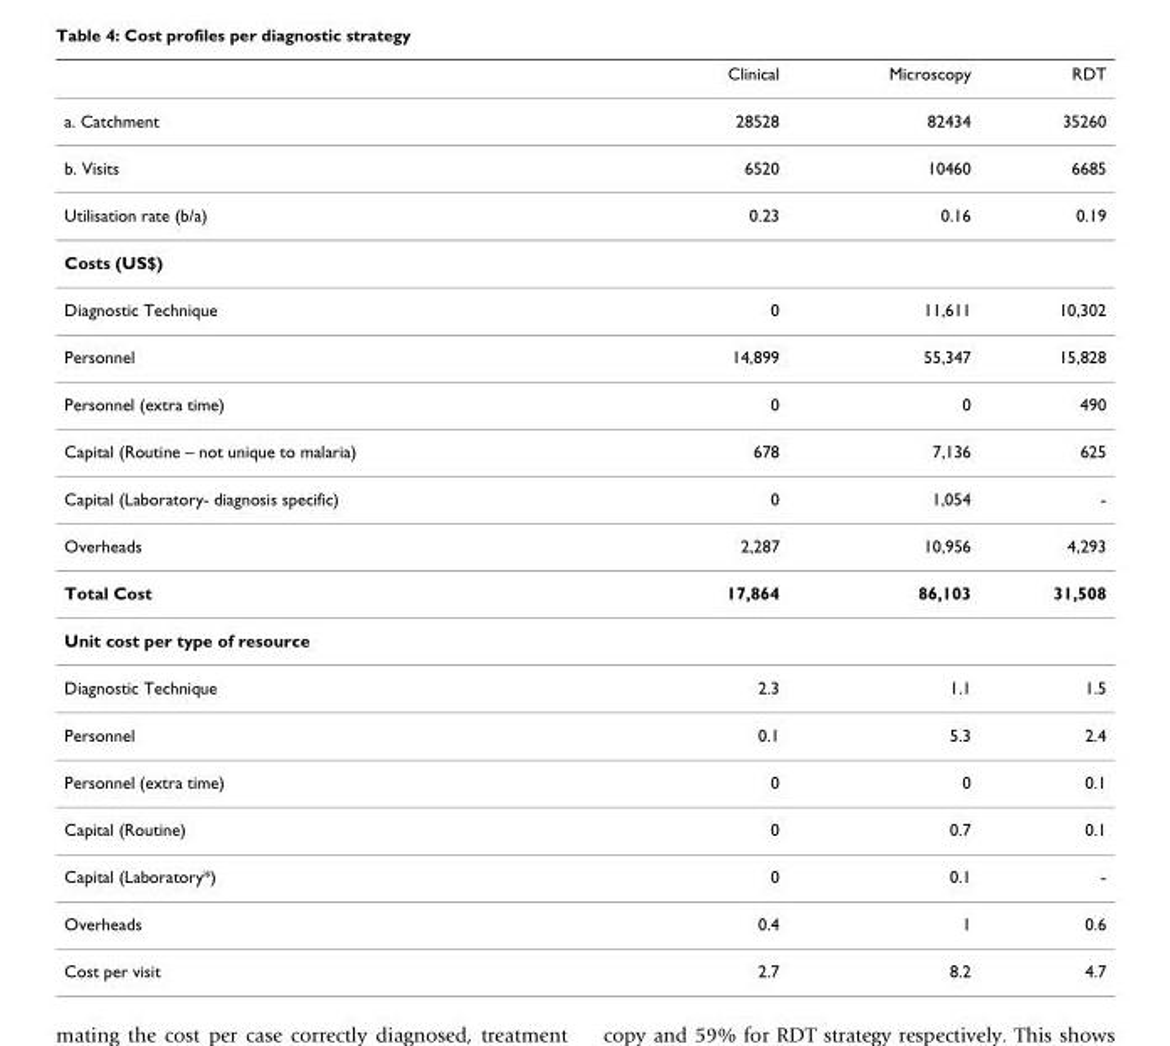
<table><thead><tr><td></td><td>Clinical</td><td>Microscopy</td><td>RDT</td></tr></thead><tbody><tr><td>a. Catchment</td><td>28528</td><td>82434</td><td>35260</td></tr><tr><td>b. Visits</td><td>6520</td><td>10460</td><td>6685</td></tr><tr><td>Utilisation rate (b/a)</td><td>0.23</td><td>0.16</td><td>0.19</td></tr><tr><td colspan="4">Costs (US$)</td></tr><tr><td>Diagnostic Technique</td><td>0</td><td>11,611</td><td>10,302</td></tr><tr><td>Personnel</td><td>14,899</td><td>55,347</td><td>15,828</td></tr><tr><td>Personnel (extra time)</td><td>0</td><td>0</td><td>490</td></tr><tr><td>Capital (Routine – not unique to malaria)</td><td>678</td><td>7,136</td><td>625</td></tr><tr><td>Capital (Laboratory- diagnosis specific)</td><td>0</td><td>1,054</td><td>-</td></tr><tr><td>Overheads</td><td>2,287</td><td>10,956</td><td>4,293</td></tr><tr><td>Total Cost</td><td>17,864</td><td>86,103</td><td>31,508</td></tr><tr><td colspan="4">Unit cost per type of resource</td></tr><tr><td>Diagnostic Technique</td><td>2.3</td><td>1.1</td><td>1.5</td></tr><tr><td>Personnel</td><td>0.1</td><td>5.3</td><td>2.4</td></tr><tr><td>Personnel (extra time)</td><td>0</td><td>0</td><td>0.1</td></tr><tr><td>Capital (Routine)</td><td>0</td><td>0.7</td><td>0.1</td></tr><tr><td>Capital (Laboratory*)</td><td>0</td><td>0.1</td><td>-</td></tr><tr><td>Overheads</td><td>0.4</td><td>1</td><td>0.6</td></tr><tr><td>Cost per visit</td><td>2.7</td><td>8.2</td><td>4.7</td></tr></tbody></table>